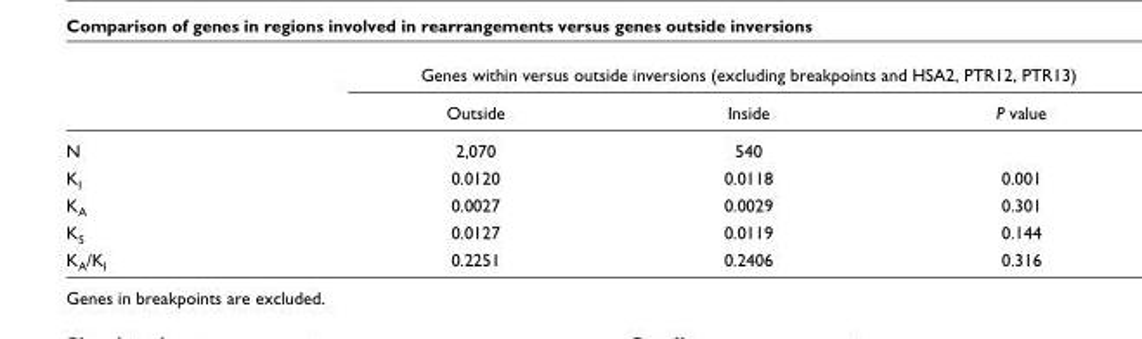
<table><thead><tr><td rowspan="2"></td><td colspan="3">Genes within versus outside inversions (excluding breakpoints and HSA2, PTR12, PTR13)</td></tr><tr><td>Outside</td><td>Inside</td><td>P value</td></tr></thead><tbody><tr><td>N</td><td>2,070</td><td>540</td><td></td></tr><tr><td>K<sub>I</sub></td><td>0.0120</td><td>0.0118</td><td>0.001</td></tr><tr><td>K<sub>A</sub></td><td>0.0027</td><td>0.0029</td><td>0.301</td></tr><tr><td>K<sub>S</sub></td><td>0.0127</td><td>0.0119</td><td>0.144</td></tr><tr><td>K<sub>A</sub>/K<sub>I</sub></td><td>0.2251</td><td>0.2406</td><td>0.316</td></tr></tbody></table>